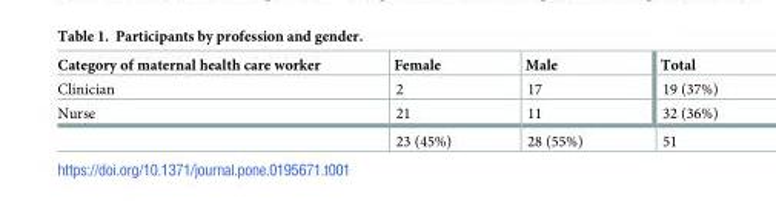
<table><thead><tr><td>Category of maternal health care worker</td><td>Female</td><td>Male</td><td>Total</td></tr></thead><tbody><tr><td>Clinician</td><td>2</td><td>17</td><td>19 (37%)</td></tr><tr><td rowspan="2">Nurse</td><td>21</td><td>11</td><td>32 (36%)</td></tr><tr><td>23 (45%)</td><td>28 (55%)</td><td>51</td></tr></tbody></table>